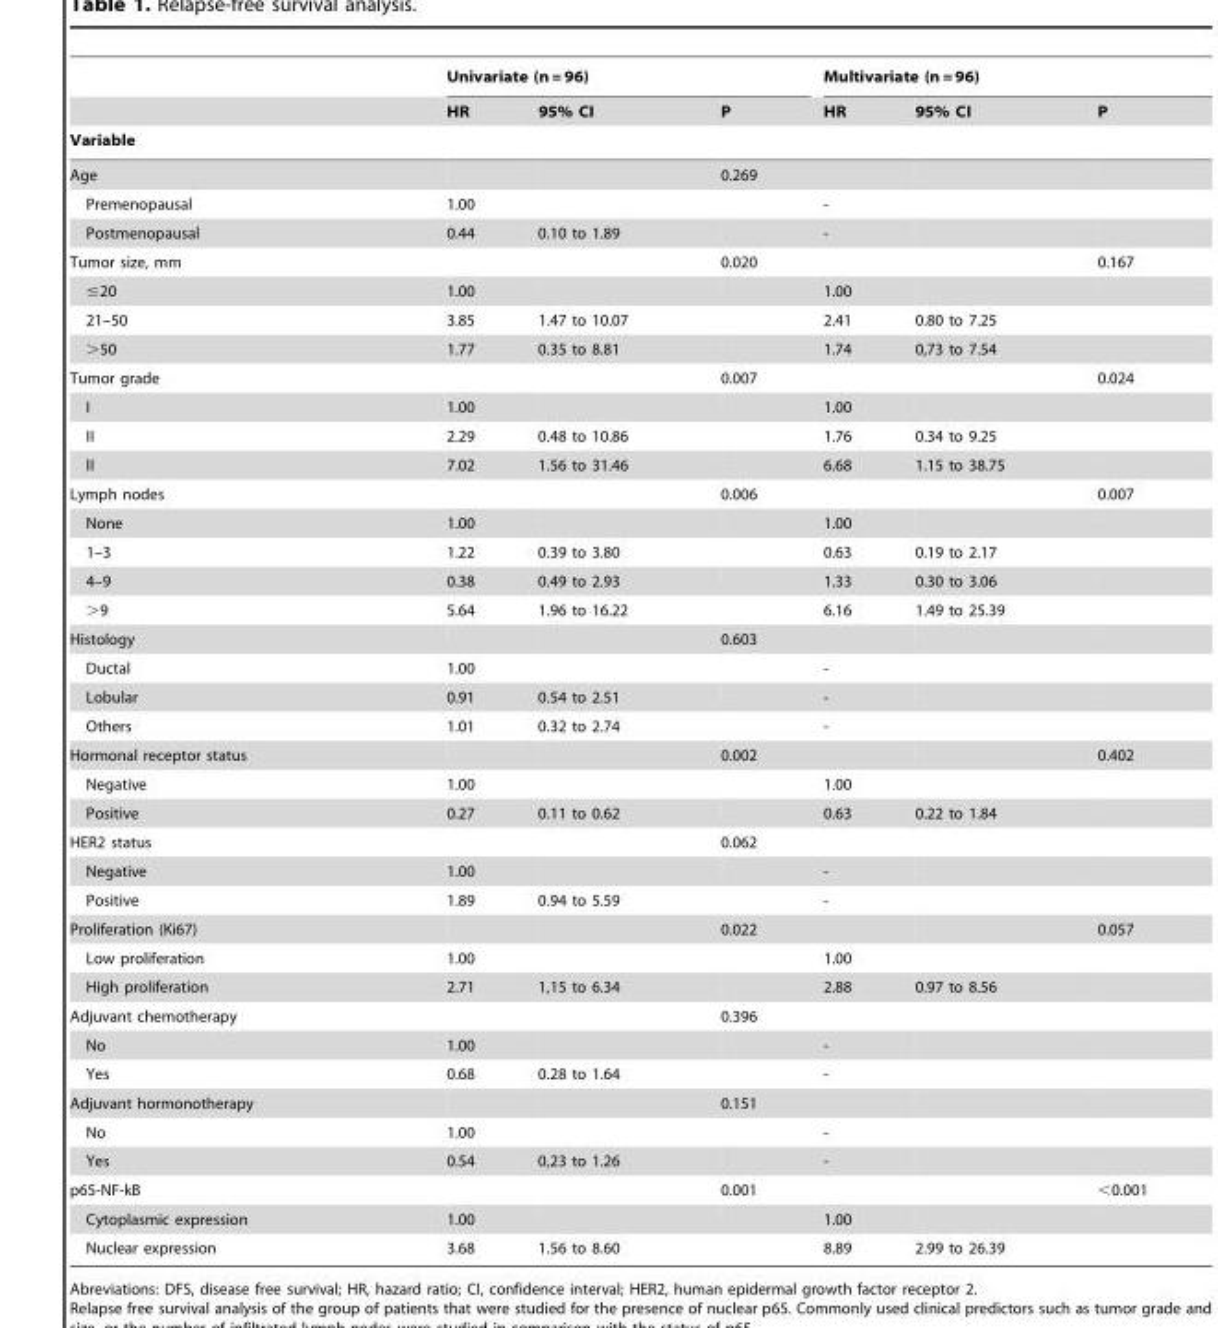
<table><thead><tr><td rowspan="3">Variable</td><td colspan="3">Univariate (n = 96)</td><td colspan="3">Multivariate (n = 96)</td></tr><tr><td rowspan="2">HR</td><td rowspan="2">95% CI</td><td rowspan="2">P</td><td rowspan="2">HR</td><td rowspan="2">95% CI</td><td rowspan="2">P</td></tr><tr></tr></thead><tbody><tr><td>Age</td><td></td><td></td><td>0.269</td><td></td><td></td><td></td></tr><tr><td>Premenopausal</td><td>1.00</td><td></td><td></td><td>-</td><td></td><td></td></tr><tr><td>Postmenopausal</td><td>0.44</td><td>0.10 to 1.89</td><td></td><td>-</td><td></td><td></td></tr><tr><td>Tumor size, mm</td><td></td><td></td><td>0.020</td><td></td><td></td><td>0.167</td></tr><tr><td>≤20</td><td>1.00</td><td></td><td></td><td>1.00</td><td></td><td></td></tr><tr><td>21–50</td><td>3.85</td><td>1.47 to 10.07</td><td></td><td>2.41</td><td>0.80 to 7.25</td><td></td></tr><tr><td>&gt;50</td><td>1.77</td><td>0.35 to 8.81</td><td></td><td>1.74</td><td>0,73 to 7.54</td><td></td></tr><tr><td>Tumor grade</td><td></td><td></td><td>0.007</td><td></td><td></td><td>0.024</td></tr><tr><td>I</td><td>1.00</td><td></td><td></td><td>1.00</td><td></td><td></td></tr><tr><td>II</td><td>2.29</td><td>0.48 to 10.86</td><td></td><td>1.76</td><td>0.34 to 9.25</td><td></td></tr><tr><td>II</td><td>7.02</td><td>1.56 to 31.46</td><td></td><td>6.68</td><td>1.15 to 38.75</td><td></td></tr><tr><td>Lymph nodes</td><td></td><td></td><td>0.006</td><td></td><td></td><td>0.007</td></tr><tr><td>None</td><td>1.00</td><td></td><td></td><td>1.00</td><td></td><td></td></tr><tr><td>1–3</td><td>1.22</td><td>0.39 to 3.80</td><td></td><td>0.63</td><td>0.19 to 2.17</td><td></td></tr><tr><td>4–9</td><td>0.38</td><td>0.49 to 2.93</td><td></td><td>1.33</td><td>0.30 to 3.06</td><td></td></tr><tr><td>&gt;9</td><td>5.64</td><td>1.96 to 16.22</td><td></td><td>6.16</td><td>1.49 to 25.39</td><td></td></tr><tr><td>Histology</td><td></td><td></td><td>0.603</td><td></td><td></td><td></td></tr><tr><td>Ductal</td><td>1.00</td><td></td><td></td><td>-</td><td></td><td></td></tr><tr><td>Lobular</td><td>0.91</td><td>0.54 to 2.51</td><td></td><td>-</td><td></td><td></td></tr><tr><td>Others</td><td>1.01</td><td>0.32 to 2.74</td><td></td><td>-</td><td></td><td></td></tr><tr><td>Hormonal receptor status</td><td></td><td></td><td>0.002</td><td></td><td></td><td>0.402</td></tr><tr><td>Negative</td><td>1.00</td><td></td><td></td><td>1.00</td><td></td><td></td></tr><tr><td>Positive</td><td>0.27</td><td>0.11 to 0.62</td><td></td><td>0.63</td><td>0.22 to 1.84</td><td></td></tr><tr><td>HER2 status</td><td></td><td></td><td>0.062</td><td></td><td></td><td></td></tr><tr><td>Negative</td><td>1.00</td><td></td><td></td><td>-</td><td></td><td></td></tr><tr><td>Positive</td><td>1.89</td><td>0.94 to 5.59</td><td></td><td>-</td><td></td><td></td></tr><tr><td>Proliferation (Ki67)</td><td></td><td></td><td>0.022</td><td></td><td></td><td>0.057</td></tr><tr><td>Low proliferation</td><td>1.00</td><td></td><td></td><td>1.00</td><td></td><td></td></tr><tr><td>High proliferation</td><td>2.71</td><td>1,15 to 6.34</td><td></td><td>2.88</td><td>0.97 to 8.56</td><td></td></tr><tr><td>Adjuvant chemotherapy</td><td></td><td></td><td>0.396</td><td></td><td></td><td></td></tr><tr><td>No</td><td>1.00</td><td></td><td></td><td>-</td><td></td><td></td></tr><tr><td>Yes</td><td>0.68</td><td>0.28 to 1.64</td><td></td><td>-</td><td></td><td></td></tr><tr><td>Adjuvant hormonotherapy</td><td></td><td></td><td>0.151</td><td></td><td></td><td></td></tr><tr><td>No</td><td>1.00</td><td></td><td></td><td>-</td><td></td><td></td></tr><tr><td>Yes</td><td>0.54</td><td>0,23 to 1.26</td><td></td><td>-</td><td></td><td></td></tr><tr><td>p65-NF-kB</td><td></td><td></td><td>0.001</td><td></td><td></td><td>&lt;0.001</td></tr><tr><td>Cytoplasmic expression</td><td>1.00</td><td></td><td></td><td>1.00</td><td></td><td></td></tr><tr><td>Nuclear expression</td><td>3.68</td><td>1.56 to 8.60</td><td></td><td>8.89</td><td>2.99 to 26.39</td><td></td></tr></tbody></table>